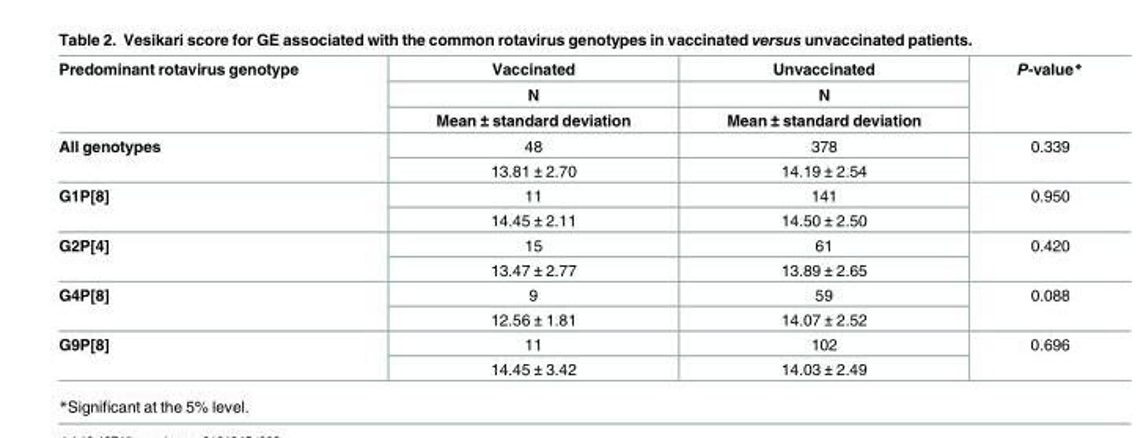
<table><thead><tr><td rowspan="3">Predominant rotavirus genotype</td><td rowspan="3">Vaccinated N Mean ± standard deviation</td><td rowspan="3">Unvaccinated N Mean ± standard deviation</td><td rowspan="3">P-value*</td></tr><tr></tr><tr></tr></thead><tbody><tr><td rowspan="2">All genotypes</td><td>48</td><td>378</td><td rowspan="2">0.339</td></tr><tr><td>13.81 ± 2.70</td><td>14.19 ± 2.54</td></tr><tr><td rowspan="2">G1P[8]</td><td>11</td><td>141</td><td rowspan="2">0.950</td></tr><tr><td>14.45 ± 2.11</td><td>14.50 ± 2.50</td></tr><tr><td rowspan="2">G2P[4]</td><td>15</td><td>61</td><td rowspan="2">0.420</td></tr><tr><td>13.47 ± 2.77</td><td>13.89 ± 2.65</td></tr><tr><td rowspan="2">G4P[8]</td><td>9</td><td>59</td><td rowspan="2">0.088</td></tr><tr><td>12.56 ± 1.81</td><td>14.07 ± 2.52</td></tr><tr><td rowspan="2">G9P[8]</td><td>11</td><td>102</td><td rowspan="2">0.696</td></tr><tr><td>14.45 ± 3.42</td><td>14.03 ± 2.49</td></tr></tbody></table>